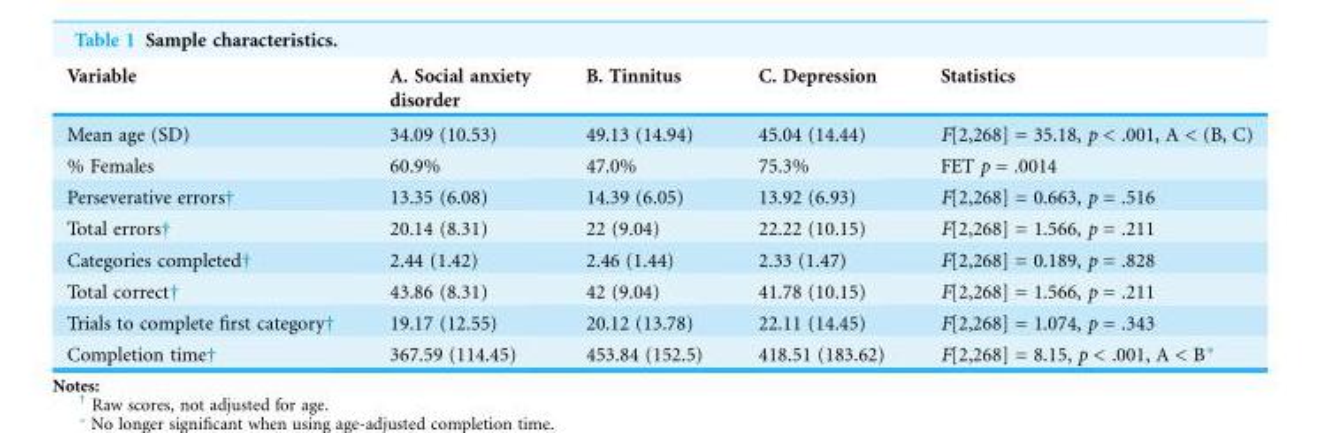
<table><thead><tr><td>Variable</td><td>A. Social anxiety disorder</td><td>B. Tinnitus</td><td>C. Depression</td><td>Statistics</td></tr></thead><tbody><tr><td>Mean age (SD)</td><td>34.09 (10.53)</td><td>49.13 (14.94)</td><td>45.04 (14.44)</td><td>F[2,268] = 35.18, p &lt; .001, A &lt; (B, C)</td></tr><tr><td>% Females</td><td>60.9%</td><td>47.0%</td><td>75.3%</td><td>FET p = .0014</td></tr><tr><td>Perseverative errors†</td><td>13.35 (6.08)</td><td>14.39 (6.05)</td><td>13.92 (6.93)</td><td>F[2,268] = 0.663, p = .516</td></tr><tr><td>Total errors†</td><td>20.14 (8.31)</td><td>22 (9.04)</td><td>22.22 (10.15)</td><td>F[2,268] = 1.566, p = .211</td></tr><tr><td>Categories completed†</td><td>2.44 (1.42)</td><td>2.46 (1.44)</td><td>2.33 (1.47)</td><td>F[2,268] = 0.189, p = .828</td></tr><tr><td>Total correct†</td><td>43.86 (8.31)</td><td>42 (9.04)</td><td>41.78 (10.15)</td><td>F[2,268] = 1.566, p = .211</td></tr><tr><td>Trials to complete first category†</td><td>19.17 (12.55)</td><td>20.12 (13.78)</td><td>22.11 (14.45)</td><td>F[2,268] = 1.074, p = .343</td></tr><tr><td>Completion time†</td><td>367.59 (114.45)</td><td>453.84 (152.5)</td><td>418.51 (183.62)</td><td>F[2,268] = 8.15, p &lt; .001, A &lt; B*</td></tr></tbody></table>